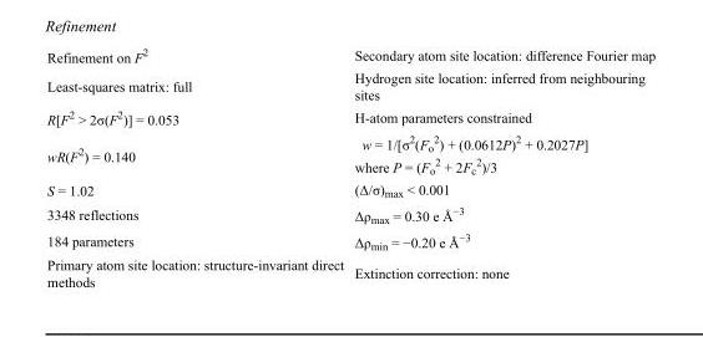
<table><tbody><tr><td>Refinement on F<sup>2</sup></td><td>Secondary atom site location: difference Fourier map</td></tr><tr><td>Least-squares matrix: full</td><td>Hydrogen site location: inferred from neighbouring sites</td></tr><tr><td>R[F<sup>2</sup> &gt; 2σ(F<sup>2</sup>)] = 0.053</td><td>H-atom parameters constrained</td></tr><tr><td>wR(F<sup>2</sup>) = 0.140</td><td>w = 1/[σ<sup>2</sup>(F<sub>o</sub> <sup>2</sup>) + (0.0612P)<sup>2</sup> + 0.2027P] where P = (F<sub>o</sub> <sup>2</sup> + 2F<sub>c</sub> <sup>2</sup>)/3</td></tr><tr><td>S = 1.02</td><td>(Δ/σ)<sub>max</sub> &lt; 0.001</td></tr><tr><td>3348 reflections</td><td>Δρ<sub>max</sub> = 0.30 e Å<sup>−3</sup></td></tr><tr><td>184 parameters</td><td>Δρ<sub>min</sub> = −0.20 e Å<sup>−3</sup></td></tr><tr><td>Primary atom site location: structure-invariant direct methods</td><td>Extinction correction: none</td></tr></tbody></table>